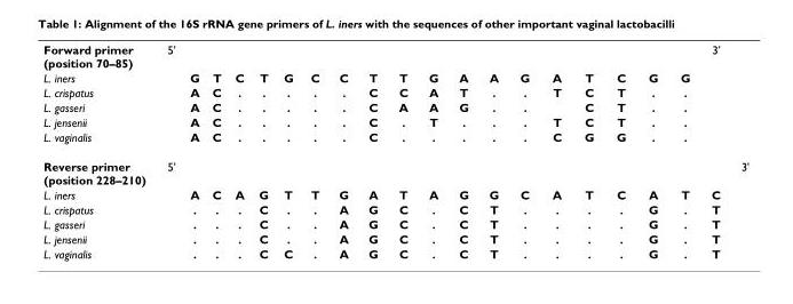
<table><tbody><tr><td>Forward primer (position 70–85)</td><td>5&#x27;</td><td></td><td></td><td></td><td></td><td></td><td></td><td></td><td></td><td></td><td></td><td></td><td></td><td></td><td></td><td></td><td></td><td></td><td></td><td>3&#x27;</td><td></td></tr><tr><td>L. iners</td><td></td><td>G</td><td>T</td><td>C</td><td>T</td><td>G</td><td>C</td><td>C</td><td>T</td><td>T</td><td>G</td><td>A</td><td>A</td><td>G</td><td>A</td><td>T</td><td>C</td><td>G</td><td>G</td><td></td><td></td></tr><tr><td>L. crispatus</td><td></td><td>A</td><td>C</td><td>.</td><td>.</td><td>.</td><td>.</td><td>.</td><td>C</td><td>C</td><td>A</td><td>T</td><td>.</td><td>.</td><td>T</td><td>C</td><td>T</td><td>.</td><td>.</td><td></td><td></td></tr><tr><td>L. gasseri</td><td></td><td>A</td><td>C</td><td>.</td><td>.</td><td>.</td><td>.</td><td>.</td><td>C</td><td>A</td><td>A</td><td>G</td><td>.</td><td>.</td><td></td><td>C</td><td>T</td><td>.</td><td>.</td><td></td><td></td></tr><tr><td>L. jensenii</td><td></td><td>A</td><td>C</td><td>.</td><td>.</td><td>.</td><td>.</td><td>.</td><td>C</td><td>.</td><td>T</td><td>.</td><td>.</td><td>.</td><td>T</td><td>C</td><td>T</td><td>.</td><td>.</td><td></td><td></td></tr><tr><td>L. vaginalis</td><td></td><td>A</td><td>C</td><td>.</td><td>.</td><td>.</td><td>.</td><td>.</td><td>C</td><td>.</td><td>.</td><td>.</td><td>.</td><td>.</td><td>C</td><td>G</td><td>G</td><td>.</td><td>.</td><td></td><td></td></tr><tr><td>Reverse primer (position 228–210)</td><td>5&#x27;</td><td></td><td></td><td></td><td></td><td></td><td></td><td></td><td></td><td></td><td></td><td></td><td></td><td></td><td></td><td></td><td></td><td></td><td></td><td></td><td>3&#x27;</td></tr><tr><td>L. iners</td><td></td><td>A</td><td>C</td><td>A</td><td>G</td><td>T</td><td>T</td><td>G</td><td>A</td><td>T</td><td>A</td><td>G</td><td>G</td><td>C</td><td>A</td><td>T</td><td>C</td><td>A</td><td>T</td><td>C</td><td></td></tr><tr><td>L. crispatus</td><td></td><td>.</td><td>.</td><td>.</td><td>C</td><td>.</td><td>.</td><td>A</td><td>G</td><td>C</td><td>.</td><td>C</td><td>T</td><td>.</td><td>.</td><td>.</td><td>.</td><td>G</td><td>.</td><td>T</td><td></td></tr><tr><td>L. gasseri</td><td></td><td>.</td><td>.</td><td>.</td><td>C</td><td>.</td><td>.</td><td>A</td><td>G</td><td>C</td><td>.</td><td>C</td><td>T</td><td>.</td><td>.</td><td>.</td><td>.</td><td>G</td><td>.</td><td>T</td><td></td></tr><tr><td>L. jensenii</td><td></td><td>.</td><td>.</td><td>.</td><td>C</td><td>.</td><td>.</td><td>A</td><td>G</td><td>C</td><td>.</td><td>C</td><td>T</td><td>.</td><td>.</td><td>.</td><td>.</td><td>G</td><td>.</td><td>T</td><td></td></tr><tr><td>L. vaginalis</td><td></td><td>.</td><td>.</td><td>.</td><td>C</td><td>C</td><td>.</td><td>A</td><td>G</td><td>C</td><td>.</td><td>C</td><td>T</td><td>.</td><td>.</td><td>.</td><td>.</td><td>G</td><td>.</td><td>T</td><td></td></tr></tbody></table>